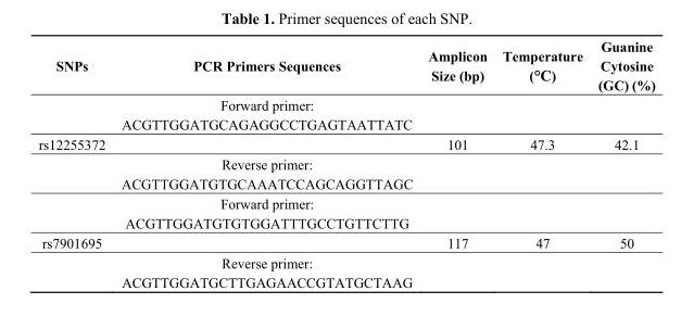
<table><thead><tr><td>SNPs</td><td>PCR Primers Sequences</td><td>Amplicon Size (bp)</td><td>Temperature (°C)</td><td>Guanine Cytosine (GC) (%)</td></tr></thead><tbody><tr><td rowspan="2"></td><td>Forward primer:</td><td rowspan="2"></td><td rowspan="2"></td><td rowspan="2"></td></tr><tr><td>ACGTTGGATGCAGAGGCCTGAGTAATTATC</td></tr><tr><td rowspan="5">rs12255372</td><td></td><td>101</td><td>47.3</td><td>42.1</td></tr><tr><td>Reverse primer:</td><td rowspan="2"></td><td rowspan="2"></td><td rowspan="2"></td></tr><tr><td>ACGTTGGATGTGCAAATCCAGCAGGTTAGC</td></tr><tr><td>Forward primer:</td><td rowspan="2"></td><td rowspan="2"></td><td rowspan="2"></td></tr><tr><td>ACGTTGGATGTGTGGATTTGCCTGTTCTTG</td></tr><tr><td rowspan="3">rs7901695</td><td></td><td>117</td><td>47</td><td>50</td></tr><tr><td>Reverse primer:</td><td rowspan="2"></td><td rowspan="2"></td><td rowspan="2"></td></tr><tr><td>ACGTTGGATGCTTGAGAACCGTATGCTAAG</td></tr></tbody></table>